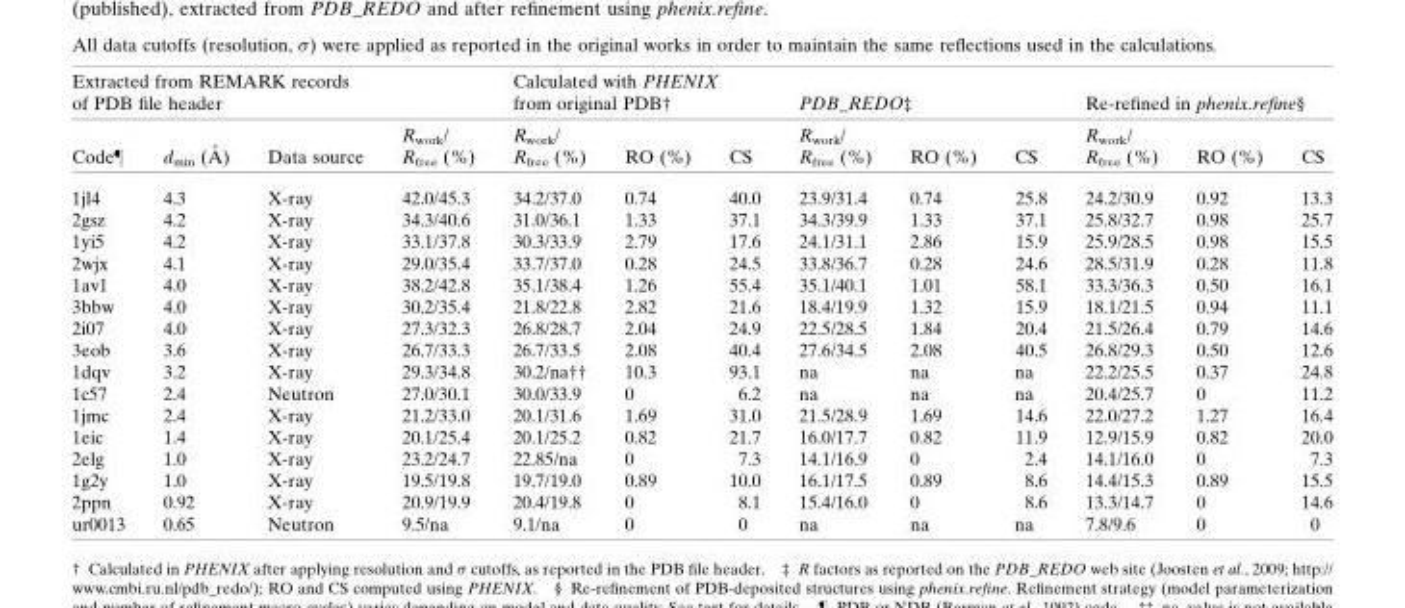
<table><thead><tr><td colspan="4">Extracted from REMARK records of PDB file header</td><td colspan="3">Calculated with PHENIX from original PDB†</td><td colspan="3">PDB_REDO‡</td><td colspan="3">Re-refined in phenix.refine§</td></tr><tr><td>Code¶</td><td>dmin (A˚ )</td><td>Data source</td><td>R<sub>work</sub>/ R<sub>free</sub> (%)</td><td>R<sub>work</sub>/ R<sub>free</sub> (%)</td><td>RO (%)</td><td>CS</td><td>R<sub>work</sub>/ R<sub>free</sub> (%)</td><td>RO (%)</td><td>CS</td><td>R<sub>work</sub>/ R<sub>free</sub> (%)</td><td>RO (%)</td><td>CS</td></tr></thead><tbody><tr><td>1jl4</td><td>4.3</td><td>X-ray</td><td>42.0/45.3</td><td>34.2/37.0</td><td>0.74</td><td>40.0</td><td>23.9/31.4</td><td>0.74</td><td>25.8</td><td>24.2/30.9</td><td>0.92</td><td>13.3</td></tr><tr><td>2gsz</td><td>4.2</td><td>X-ray</td><td>34.3/40.6</td><td>31.0/36.1</td><td>1.33</td><td>37.1</td><td>34.3/39.9</td><td>1.33</td><td>37.1</td><td>25.8/32.7</td><td>0.98</td><td>25.7</td></tr><tr><td>1yi5</td><td>4.2</td><td>X-ray</td><td>33.1/37.8</td><td>30.3/33.9</td><td>2.79</td><td>17.6</td><td>24.1/31.1</td><td>2.86</td><td>15.9</td><td>25.9/28.5</td><td>0.98</td><td>15.5</td></tr><tr><td>2wjx</td><td>4.1</td><td>X-ray</td><td>29.0/35.4</td><td>33.7/37.0</td><td>0.28</td><td>24.5</td><td>33.8/36.7</td><td>0.28</td><td>24.6</td><td>28.5/31.9</td><td>0.28</td><td>11.8</td></tr><tr><td>1av1</td><td>4.0</td><td>X-ray</td><td>38.2/42.8</td><td>35.1/38.4</td><td>1.26</td><td>55.4</td><td>35.1/40.1</td><td>1.01</td><td>58.1</td><td>33.3/36.3</td><td>0.50</td><td>16.1</td></tr><tr><td>3bbw</td><td>4.0</td><td>X-ray</td><td>30.2/35.4</td><td>21.8/22.8</td><td>2.82</td><td>21.6</td><td>18.4/19.9</td><td>1.32</td><td>15.9</td><td>18.1/21.5</td><td>0.94</td><td>11.1</td></tr><tr><td>2i07</td><td>4.0</td><td>X-ray</td><td>27.3/32.3</td><td>26.8/28.7</td><td>2.04</td><td>24.9</td><td>22.5/28.5</td><td>1.84</td><td>20.4</td><td>21.5/26.4</td><td>0.79</td><td>14.6</td></tr><tr><td>3eob</td><td>3.6</td><td>X-ray</td><td>26.7/33.3</td><td>26.7/33.5</td><td>2.08</td><td>40.4</td><td>27.6/34.5</td><td>2.08</td><td>40.5</td><td>26.8/29.3</td><td>0.50</td><td>12.6</td></tr><tr><td>1dqv</td><td>3.2</td><td>X-ray</td><td>29.3/34.8</td><td>30.2/na††</td><td>10.3</td><td>93.1</td><td>na</td><td>na</td><td>na</td><td>22.2/25.5</td><td>0.37</td><td>24.8</td></tr><tr><td>1c57</td><td>2.4</td><td>Neutron</td><td>27.0/30.1</td><td>30.0/33.9</td><td>0</td><td>6.2</td><td>na</td><td>na</td><td>na</td><td>20.4/25.7</td><td>0</td><td>11.2</td></tr><tr><td>1jmc</td><td>2.4</td><td>X-ray</td><td>21.2/33.0</td><td>20.1/31.6</td><td>1.69</td><td>31.0</td><td>21.5/28.9</td><td>1.69</td><td>14.6</td><td>22.0/27.2</td><td>1.27</td><td>16.4</td></tr><tr><td>1eic</td><td>1.4</td><td>X-ray</td><td>20.1/25.4</td><td>20.1/25.2</td><td>0.82</td><td>21.7</td><td>16.0/17.7</td><td>0.82</td><td>11.9</td><td>12.9/15.9</td><td>0.82</td><td>20.0</td></tr><tr><td>2elg</td><td>1.0</td><td>X-ray</td><td>23.2/24.7</td><td>22.85/na</td><td>0</td><td>7.3</td><td>14.1/16.9</td><td>0</td><td>2.4</td><td>14.1/16.0</td><td>0</td><td>7.3</td></tr><tr><td>1g2y</td><td>1.0</td><td>X-ray</td><td>19.5/19.8</td><td>19.7/19.0</td><td>0.89</td><td>10.0</td><td>16.1/17.5</td><td>0.89</td><td>8.6</td><td>14.4/15.3</td><td>0.89</td><td>15.5</td></tr><tr><td>2ppn</td><td>0.92</td><td>X-ray</td><td>20.9/19.9</td><td>20.4/19.8</td><td>0</td><td>8.1</td><td>15.4/16.0</td><td>0</td><td>8.6</td><td>13.3/14.7</td><td>0</td><td>14.6</td></tr><tr><td>ur0013</td><td>0.65</td><td>Neutron</td><td>9.5/na</td><td>9.1/na</td><td>0</td><td>0</td><td>na</td><td>na</td><td>na</td><td>7.8/9.6</td><td>0</td><td>0</td></tr></tbody></table>